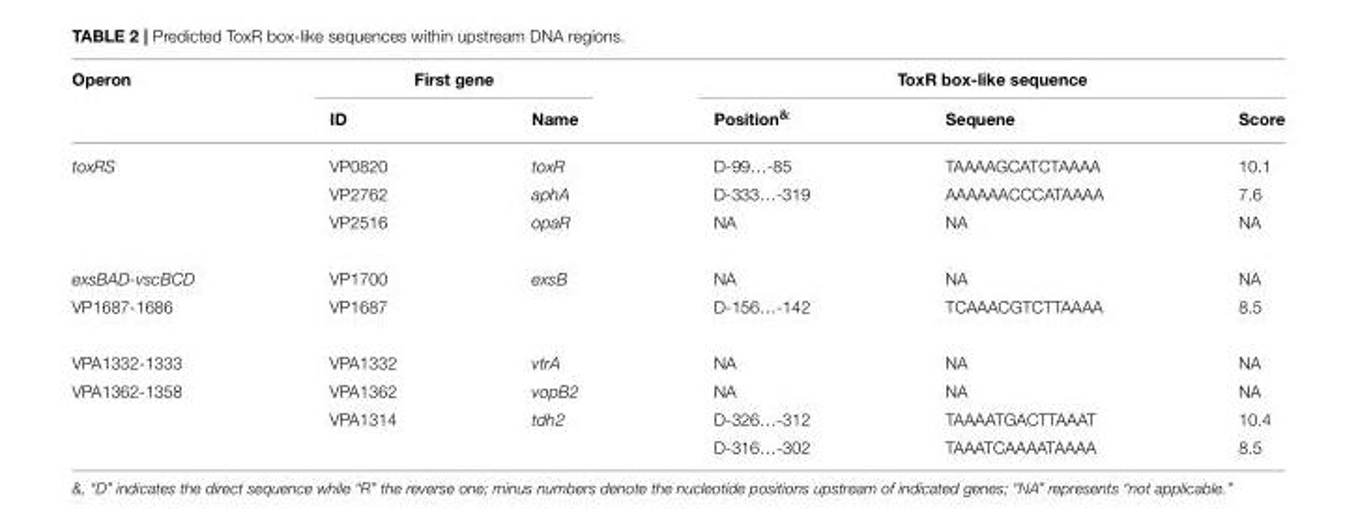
<table><thead><tr><td rowspan="2">Operon</td><td colspan="2">First gene</td><td colspan="3">ToxR box-like sequence</td></tr><tr><td>ID</td><td>Name</td><td>Position<sup>&amp;</sup></td><td>Sequene</td><td>Score</td></tr></thead><tbody><tr><td rowspan="3">toxRS</td><td>VP0820</td><td>toxR</td><td>D-99…-85</td><td>TAAAAGCATCTAAAA</td><td>10.1</td></tr><tr><td>VP2762</td><td>aphA</td><td>D-333…-319</td><td>AAAAAACCCATAAAA</td><td>7.6</td></tr><tr><td>VP2516</td><td>opaR</td><td>NA</td><td>NA</td><td>NA</td></tr><tr><td>exsBAD-vscBCD</td><td>VP1700</td><td>exsB</td><td>NA</td><td>NA</td><td>NA</td></tr><tr><td>VP1687-1686</td><td>VP1687</td><td></td><td>D-156…-142</td><td>TCAAACGTCTTAAAA</td><td>8.5</td></tr><tr><td>VPA1332-1333</td><td>VPA1332</td><td>vtrA</td><td>NA</td><td>NA</td><td>NA</td></tr><tr><td rowspan="3">VPA1362-1358</td><td>VPA1362</td><td>vopB2</td><td>NA</td><td>NA</td><td>NA</td></tr><tr><td>VPA1314</td><td>tdh2</td><td>D-326…-312</td><td>TAAAATGACTTAAAT</td><td>10.4</td></tr><tr><td></td><td></td><td>D-316…-302</td><td>TAAATCAAAATAAAA</td><td>8.5</td></tr></tbody></table>